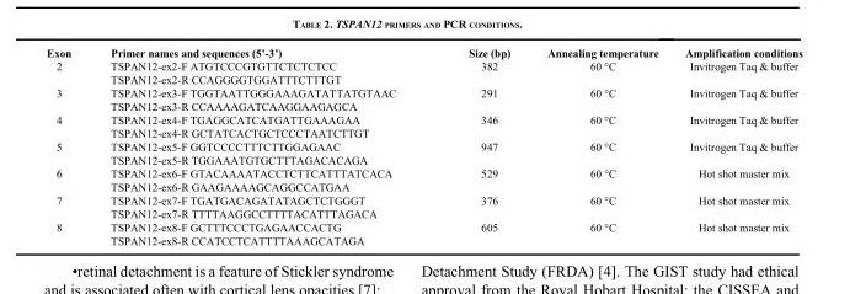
<table><thead><tr><td>Exon</td><td>Primer names and sequences (5’-3’)</td><td>Size (bp)</td><td>Annealing temperature</td><td>Amplification conditions</td></tr></thead><tbody><tr><td rowspan="2">2</td><td>TSPAN12-ex2-F ATGTCCCGTGTTCTCTCTCC</td><td>382</td><td>60 °C</td><td>Invitrogen Taq &amp; buffer</td></tr><tr><td>TSPAN12-ex2-R CCAGGGGTGGATTTCTTTGT</td><td></td><td></td><td></td></tr><tr><td rowspan="2">3</td><td>TSPAN12-ex3-F TGGTAATTGGGAAAGATATTATGTAAC</td><td>291</td><td>60 °C</td><td>Invitrogen Taq &amp; buffer</td></tr><tr><td>TSPAN12-ex3-R CCAAAAGATCAAGGAAGAGCA</td><td></td><td></td><td></td></tr><tr><td rowspan="2">4</td><td>TSPAN12-ex4-F TGAGGCATCATGATTGAAAGAA</td><td>346</td><td>60 °C</td><td>Invitrogen Taq &amp; buffer</td></tr><tr><td>TSPAN12-ex4-R GCTATCACTGCTCCCTAATCTTGT</td><td></td><td></td><td></td></tr><tr><td rowspan="2">5</td><td>TSPAN12-ex5-F GGTCCCCTTTCTTGGAGAAC</td><td>947</td><td>60 °C</td><td>Invitrogen Taq &amp; buffer</td></tr><tr><td>TSPAN12-ex5-R TGGAAATGTGCTTTAGACACAGA</td><td></td><td></td><td></td></tr><tr><td rowspan="2">6</td><td>TSPAN12-ex6-F GTACAAAATACCTCTTCATTTATCACA</td><td>529</td><td>60 °C</td><td>Hot shot master mix</td></tr><tr><td>TSPAN12-ex6-R GAAGAAAAGCAGGCCATGAA</td><td></td><td></td><td></td></tr><tr><td rowspan="2">7</td><td>TSPAN12-ex7-F TGATGACAGATATAGCTCTGGGT</td><td>376</td><td>60 °C</td><td>Hot shot master mix</td></tr><tr><td>TSPAN12-ex7-R TTTTAAGGCCTTTTACATTTAGACA</td><td></td><td></td><td></td></tr><tr><td rowspan="2">8</td><td>TSPAN12-ex8-F GCTTTCCCTGAGAACCACTG</td><td>605</td><td>60 °C</td><td>Hot shot master mix</td></tr><tr><td>TSPAN12-ex8-R CCATCCTCATTTTAAAGCATAGA</td><td></td><td></td><td></td></tr></tbody></table>